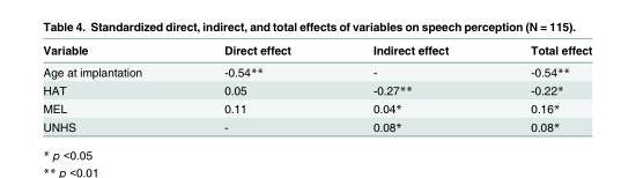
<table><thead><tr><td>Variable</td><td>Direct effect</td><td>Indirect effect</td><td>Total effect</td></tr></thead><tbody><tr><td>Age at implantation</td><td>-0.54**</td><td>-</td><td>-0.54**</td></tr><tr><td>HAT</td><td>0.05</td><td>-0.27**</td><td>-0.22*</td></tr><tr><td>MEL</td><td>0.11</td><td>0.04*</td><td>0.16*</td></tr><tr><td>UNHS</td><td>-</td><td>0.08*</td><td>0.08*</td></tr></tbody></table>